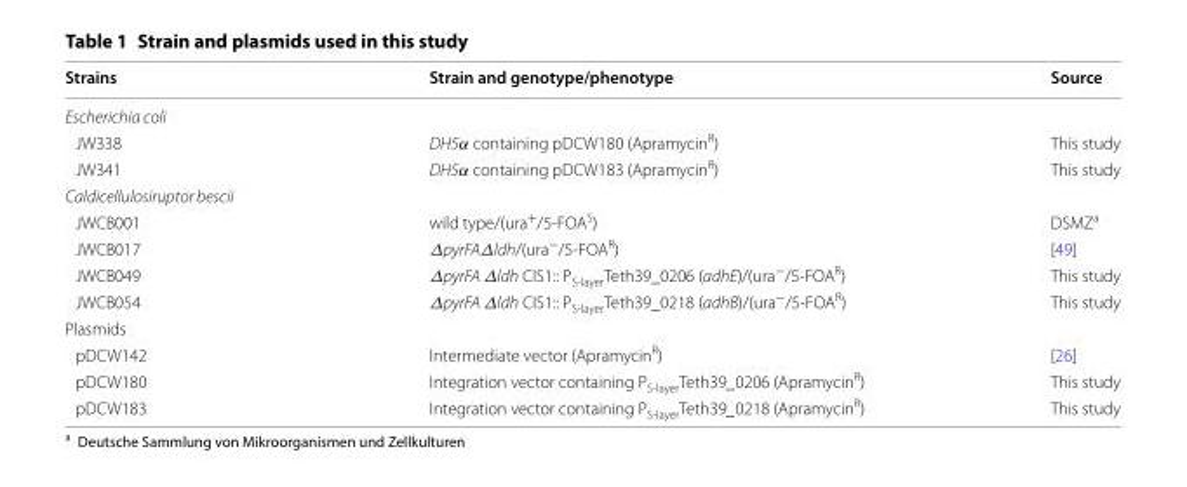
<table><thead><tr><td>Strains</td><td>Strain and genotype/phenotype</td><td>Source</td></tr></thead><tbody><tr><td colspan="3">Escherichia coli</td></tr><tr><td>JW338</td><td>DH5α containing pDCW180 (Apramycin<sup>R</sup>)</td><td>This study</td></tr><tr><td>JW341</td><td>DH5α containing pDCW183 (Apramycin<sup>R</sup>)</td><td>This study</td></tr><tr><td colspan="3">Caldicellulosiruptor bescii</td></tr><tr><td>JWCB001</td><td>wild type/(ura<sup>+</sup>/5-FOA<sup>S</sup>)</td><td>DSMZ<sup>a</sup></td></tr><tr><td>JWCB017</td><td>ΔpyrFAΔldh/(ura<sup>−</sup>/5-FOA<sup>R</sup>)</td><td>[49]</td></tr><tr><td>JWCB049</td><td>ΔpyrFA Δldh CIS1:: P<sub>S-layer</sub>Teth39_0206 (adhE)/(ura<sup>−</sup>/5-FOA<sup>R</sup>)</td><td>This study</td></tr><tr><td>JWCB054</td><td>ΔpyrFA Δldh CIS1:: P<sub>S-layer</sub>Teth39_0218 (adhB)/(ura<sup>−</sup>/5-FOA<sup>R</sup>)</td><td>This study</td></tr><tr><td colspan="3">Plasmids</td></tr><tr><td>pDCW142</td><td>Intermediate vector (Apramycin<sup>R</sup>)</td><td>[26]</td></tr><tr><td>pDCW180</td><td>Integration vector containing P<sub>S-layer</sub>Teth39_0206 (Apramycin<sup>R</sup>)</td><td>This study</td></tr><tr><td>pDCW183</td><td>Integration vector containing P<sub>S-layer</sub>Teth39_0218 (Apramycin<sup>R</sup>)</td><td>This study</td></tr></tbody></table>